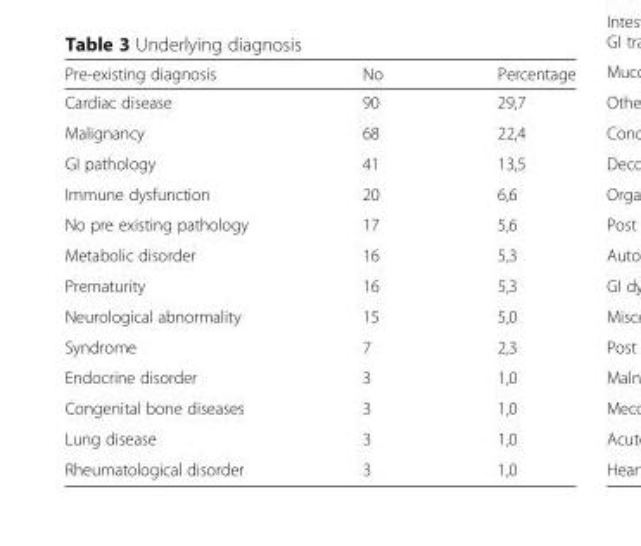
<table><thead><tr><td>Pre-existing diagnosis</td><td>No</td><td>Percentage</td></tr></thead><tbody><tr><td>Cardiac disease</td><td>90</td><td>29,7</td></tr><tr><td>Malignancy</td><td>68</td><td>22,4</td></tr><tr><td>GI pathology</td><td>41</td><td>13,5</td></tr><tr><td>Immune dysfunction</td><td>20</td><td>6,6</td></tr><tr><td>No pre existing pathology</td><td>17</td><td>5,6</td></tr><tr><td>Metabolic disorder</td><td>16</td><td>5,3</td></tr><tr><td>Prematurity</td><td>16</td><td>5,3</td></tr><tr><td>Neurological abnormality</td><td>15</td><td>5,0</td></tr><tr><td>Syndrome</td><td>7</td><td>2,3</td></tr><tr><td>Endocrine disorder</td><td>3</td><td>1,0</td></tr><tr><td>Congenital bone diseases</td><td>3</td><td>1,0</td></tr><tr><td>Lung disease</td><td>3</td><td>1,0</td></tr><tr><td>Rheumatological disorder</td><td>3</td><td>1,0</td></tr></tbody></table>